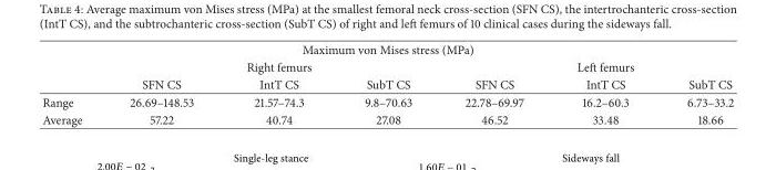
<table><thead><tr><td colspan="7">Maximum von Mises stress (MPa)</td></tr><tr><td rowspan="2"></td><td rowspan="2">SFN CS</td><td rowspan="2">Right femurs IntT CS</td><td rowspan="2">SubT CS</td><td rowspan="2">SFN CS</td><td rowspan="2">Left femurs IntT CS</td><td rowspan="2">SubT CS</td></tr><tr></tr></thead><tbody><tr><td>Range</td><td>26.69–148.53</td><td>21.57–74.3</td><td>9.8–70.63</td><td>22.78–69.97</td><td>16.2–60.3</td><td>6.73–33.2</td></tr><tr><td>Average</td><td>57.22</td><td>40.74</td><td>27.08</td><td>46.52</td><td>33.48</td><td>18.66</td></tr></tbody></table>